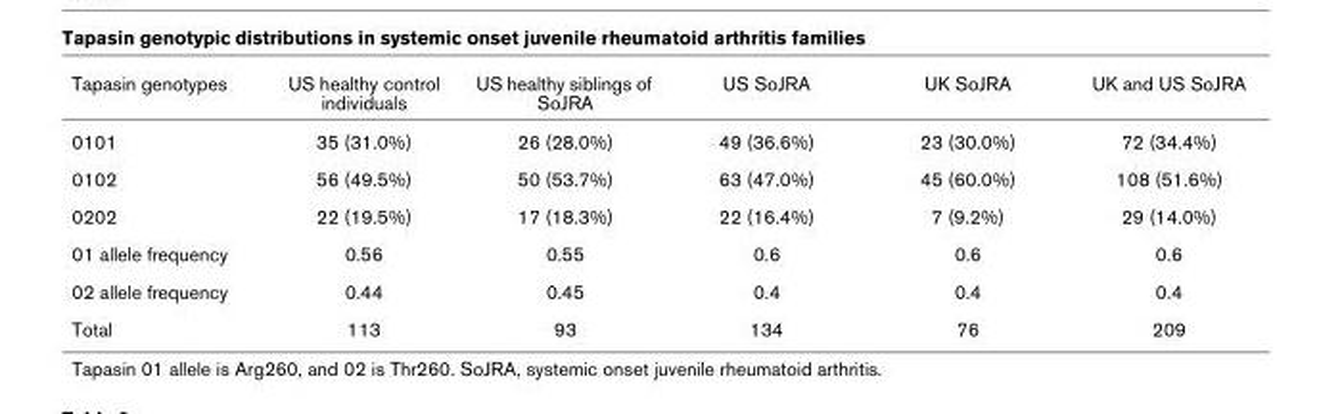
<table><thead><tr><td>Tapasin genotypes</td><td>US healthy control individuals</td><td>US healthy siblings of SoJRA</td><td>US SoJRA</td><td>UK SoJRA</td><td>UK and US SoJRA</td></tr></thead><tbody><tr><td>0101</td><td>35 (31.0%)</td><td>26 (28.0%)</td><td>49 (36.6%)</td><td>23 (30.0%)</td><td>72 (34.4%)</td></tr><tr><td>0102</td><td>56 (49.5%)</td><td>50 (53.7%)</td><td>63 (47.0%)</td><td>45 (60.0%)</td><td>108 (51.6%)</td></tr><tr><td>0202</td><td>22 (19.5%)</td><td>17 (18.3%)</td><td>22 (16.4%)</td><td>7 (9.2%)</td><td>29 (14.0%)</td></tr><tr><td>01 allele frequency</td><td>0.56</td><td>0.55</td><td>0.6</td><td>0.6</td><td>0.6</td></tr><tr><td>02 allele frequency</td><td>0.44</td><td>0.45</td><td>0.4</td><td>0.4</td><td>0.4</td></tr><tr><td>Total</td><td>113</td><td>93</td><td>134</td><td>76</td><td>209</td></tr></tbody></table>